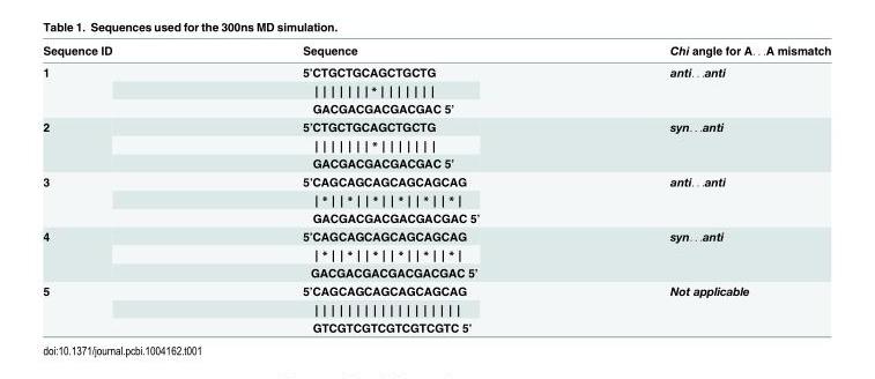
<table><thead><tr><td>Sequence ID</td><td>Sequence</td><td>Chi angle for A. . .A mismatch</td></tr></thead><tbody><tr><td rowspan="3">1</td><td>5’CTGCTGCAGCTGCTG</td><td rowspan="3">anti. . .anti</td></tr><tr><td>| | | | | | | * | | | | | | |</td></tr><tr><td>GACGACGACGACGAC 5’</td></tr><tr><td rowspan="3">2</td><td>5’CTGCTGCAGCTGCTG</td><td rowspan="3">syn. . .anti</td></tr><tr><td>| | | | | | | * | | | | | | |</td></tr><tr><td>GACGACGACGACGAC 5’</td></tr><tr><td rowspan="3">3</td><td>5’CAGCAGCAGCAGCAGCAG</td><td rowspan="3">anti. . .anti</td></tr><tr><td>| * | | * | | * | | * | | * | | * |</td></tr><tr><td>GACGACGACGACGACGAC 5’</td></tr><tr><td rowspan="3">4</td><td>5’CAGCAGCAGCAGCAGCAG</td><td rowspan="3">syn. . .anti</td></tr><tr><td>| * | | * | | * | | * | | * | | * |</td></tr><tr><td>GACGACGACGACGACGAC 5’</td></tr><tr><td rowspan="3">5</td><td>5’CAGCAGCAGCAGCAGCAG</td><td rowspan="3">Not applicable</td></tr><tr><td>| | | | | | | | | | | | | | | | | |</td></tr><tr><td>GTCGTCGTCGTCGTCGTC 5’</td></tr></tbody></table>